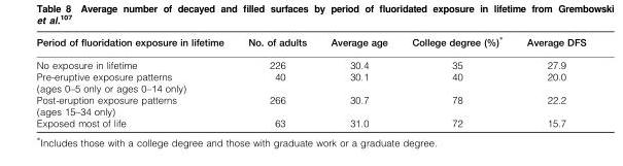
<table><thead><tr><td>Period of fluoridation exposure in lifetime</td><td>No. of adults</td><td>Average age</td><td>College degree (%)*</td><td>Average DFS</td></tr></thead><tbody><tr><td>No exposure in lifetime</td><td>226</td><td>30.4</td><td>35</td><td>27.9</td></tr><tr><td>Pre-eruptive exposure patterns (ages 0–5 only or ages 0–14 only)</td><td>40</td><td>30.1</td><td>40</td><td>20.0</td></tr><tr><td>Post-eruption exposure patterns (ages 15–34 only)</td><td>266</td><td>30.7</td><td>78</td><td>22.2</td></tr><tr><td>Exposed most of life</td><td>63</td><td>31.0</td><td>72</td><td>15.7</td></tr></tbody></table>